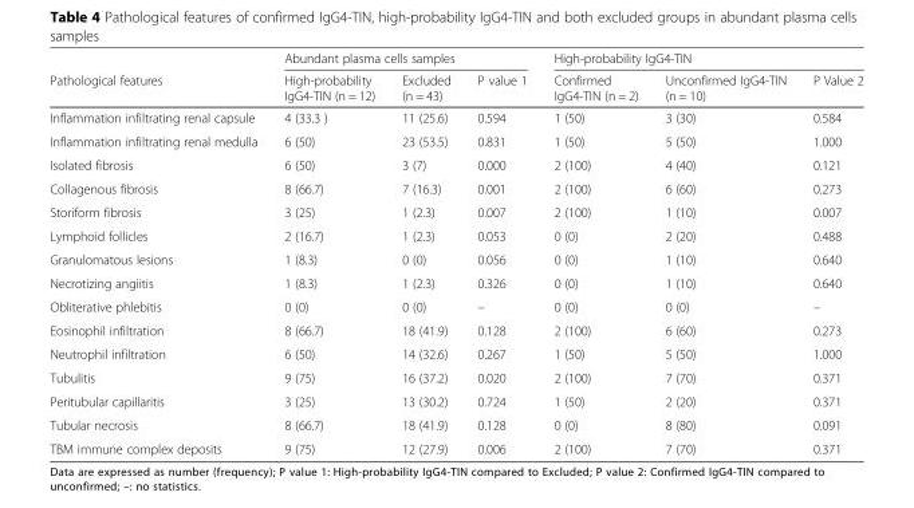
<table><thead><tr><td rowspan="2">Pathological features</td><td colspan="3">Abundant plasma cells samples</td><td colspan="3">High-probability IgG4-TIN</td></tr><tr><td>High-probability IgG4-TIN (n = 12)</td><td>Excluded (n = 43)</td><td>P value 1</td><td>Confirmed IgG4-TIN (n = 2)</td><td>Unconfirmed IgG4-TIN (n = 10)</td><td>P Value 2</td></tr></thead><tbody><tr><td>Inflammation infiltrating renal capsule</td><td>4 (33.3 )</td><td>11 (25.6)</td><td>0.594</td><td>1 (50)</td><td>3 (30)</td><td>0.584</td></tr><tr><td>Inflammation infiltrating renal medulla</td><td>6 (50)</td><td>23 (53.5)</td><td>0.831</td><td>1 (50)</td><td>5 (50)</td><td>1.000</td></tr><tr><td>Isolated fibrosis</td><td>6 (50)</td><td>3 (7)</td><td>0.000</td><td>2 (100)</td><td>4 (40)</td><td>0.121</td></tr><tr><td>Collagenous fibrosis</td><td>8 (66.7)</td><td>7 (16.3)</td><td>0.001</td><td>2 (100)</td><td>6 (60)</td><td>0.273</td></tr><tr><td>Storiform fibrosis</td><td>3 (25)</td><td>1 (2.3)</td><td>0.007</td><td>2 (100)</td><td>1 (10)</td><td>0.007</td></tr><tr><td>Lymphoid follicles</td><td>2 (16.7)</td><td>1 (2.3)</td><td>0.053</td><td>0 (0)</td><td>2 (20)</td><td>0.488</td></tr><tr><td>Granulomatous lesions</td><td>1 (8.3)</td><td>0 (0)</td><td>0.056</td><td>0 (0)</td><td>1 (10)</td><td>0.640</td></tr><tr><td>Necrotizing angiitis</td><td>1 (8.3)</td><td>1 (2.3)</td><td>0.326</td><td>0 (0)</td><td>1 (10)</td><td>0.640</td></tr><tr><td>Obliterative phlebitis</td><td>0 (0)</td><td>0 (0)</td><td>–</td><td>0 (0)</td><td>0 (0)</td><td>–</td></tr><tr><td>Eosinophil infiltration</td><td>8 (66.7)</td><td>18 (41.9)</td><td>0.128</td><td>2 (100)</td><td>6 (60)</td><td>0.273</td></tr><tr><td>Neutrophil infiltration</td><td>6 (50)</td><td>14 (32.6)</td><td>0.267</td><td>1 (50)</td><td>5 (50)</td><td>1.000</td></tr><tr><td>Tubulitis</td><td>9 (75)</td><td>16 (37.2)</td><td>0.020</td><td>2 (100)</td><td>7 (70)</td><td>0.371</td></tr><tr><td>Peritubular capillaritis</td><td>3 (25)</td><td>13 (30.2)</td><td>0.724</td><td>1 (50)</td><td>2 (20)</td><td>0.371</td></tr><tr><td>Tubular necrosis</td><td>8 (66.7)</td><td>18 (41.9)</td><td>0.128</td><td>0 (0)</td><td>8 (80)</td><td>0.091</td></tr><tr><td>TBM immune complex deposits</td><td>9 (75)</td><td>12 (27.9)</td><td>0.006</td><td>2 (100)</td><td>7 (70)</td><td>0.371</td></tr></tbody></table>